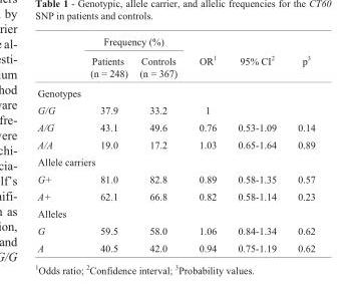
<table><thead><tr><td rowspan="2"></td><td colspan="2">Frequency (%)</td><td rowspan="2">OR<sup>1</sup></td><td rowspan="2">95% CI<sup>2</sup></td><td rowspan="2">p<sup>3</sup></td></tr><tr><td>Patients (n = 248)</td><td>Controls (n = 367)</td></tr></thead><tbody><tr><td colspan="6">Genotypes</td></tr><tr><td>G/G</td><td>37.9</td><td>33.2</td><td>1</td><td></td><td></td></tr><tr><td>A/G</td><td>43.1</td><td>49.6</td><td>0.76</td><td>0.53-1.09</td><td>0.14</td></tr><tr><td>A/A</td><td>19.0</td><td>17.2</td><td>1.03</td><td>0.65-1.64</td><td>0.89</td></tr><tr><td colspan="6">Allele carriers</td></tr><tr><td>G+</td><td>81.0</td><td>82.8</td><td>0.89</td><td>0.58-1.35</td><td>0.57</td></tr><tr><td>A+</td><td>62.1</td><td>66.8</td><td>0.82</td><td>0.58-1.14</td><td>0.23</td></tr><tr><td colspan="6">Alleles</td></tr><tr><td>G</td><td>59.5</td><td>58.0</td><td>1.06</td><td>0.84-1.34</td><td>0.62</td></tr><tr><td>A</td><td>40.5</td><td>42.0</td><td>0.94</td><td>0.75-1.19</td><td>0.62</td></tr></tbody></table>